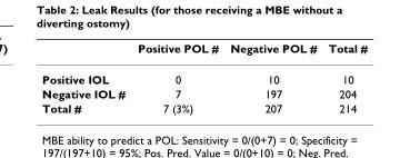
<table><thead><tr><td></td><td>Positive POL #</td><td>Negative POL #</td><td>Total #</td></tr></thead><tbody><tr><td>Positive IOL</td><td>0</td><td>10</td><td>10</td></tr><tr><td>Negative IOL #</td><td>7</td><td>197</td><td>204</td></tr><tr><td>Total #</td><td>7 (3%)</td><td>207</td><td>214</td></tr></tbody></table>